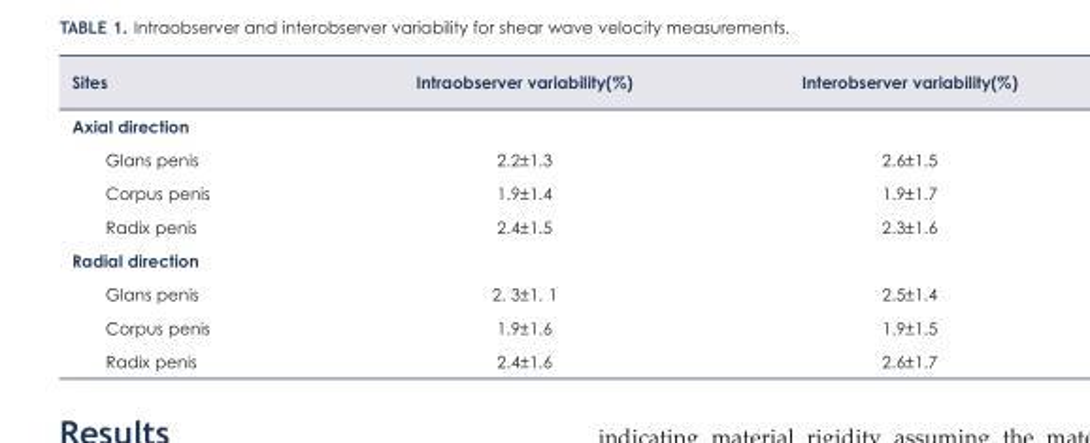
<table><thead><tr><td>Sites</td><td>Intraobserver variability(%)</td><td>Interobserver variability(%)</td></tr></thead><tbody><tr><td colspan="3">Axial direction</td></tr><tr><td>Glans penis</td><td>2.2±1.3</td><td>2.6±1.5</td></tr><tr><td>Corpus penis</td><td>1.9±1.4</td><td>1.9±1.7</td></tr><tr><td>Radix penis</td><td>2.4±1.5</td><td>2.3±1.6</td></tr><tr><td colspan="3">Radial direction</td></tr><tr><td>Glans penis</td><td>2. 3±1. 1</td><td>2.5±1.4</td></tr><tr><td>Corpus penis</td><td>1.9±1.6</td><td>1.9±1.5</td></tr><tr><td>Radix penis</td><td>2.4±1.6</td><td>2.6±1.7</td></tr></tbody></table>